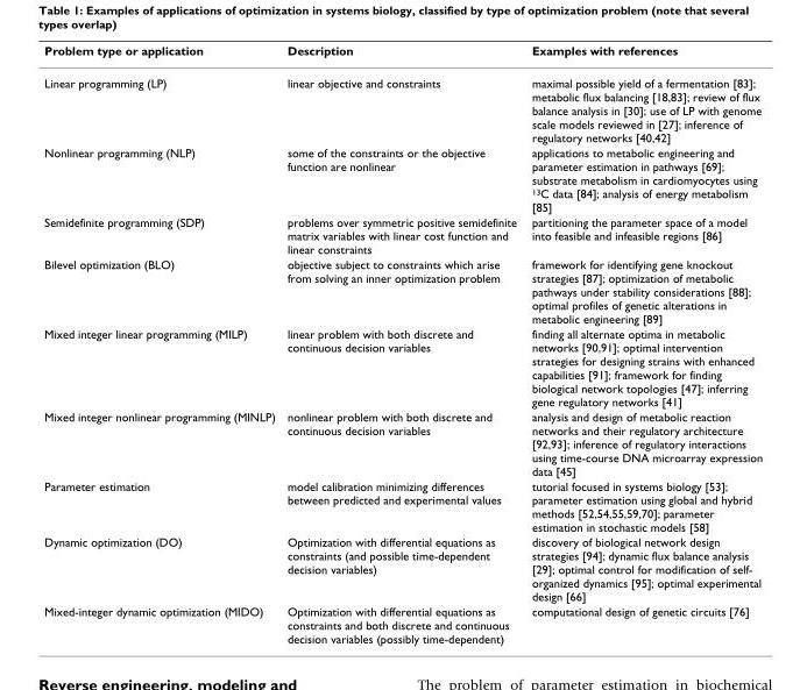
<table><thead><tr><td>Problem type or application</td><td>Description</td><td>Examples with references</td></tr></thead><tbody><tr><td>Linear programming (LP)</td><td>linear objective and constraints</td><td>maximal possible yield of a fermentation [83]; metabolic flux balancing [18,83]; review of flux balance analysis in [30]; use of LP with genome scale models reviewed in [27]; inference of regulatory networks [40,42]</td></tr><tr><td>Nonlinear programming (NLP)</td><td>some of the constraints or the objective function are nonlinear</td><td>applications to metabolic engineering and parameter estimation in pathways [69]; substrate metabolism in cardiomyocytes using <sup>13</sup>C data [84]; analysis of energy metabolism [85]</td></tr><tr><td>Semidefinite programming (SDP)</td><td>problems over symmetric positive semidefinite matrix variables with linear cost function and linear constraints</td><td>partitioning the parameter space of a model into feasible and infeasible regions [86]</td></tr><tr><td>Bilevel optimization (BLO)</td><td>objective subject to constraints which arise from solving an inner optimization problem</td><td>framework for identifying gene knockout strategies [87]; optimization of metabolic pathways under stability considerations [88]; optimal profiles of genetic alterations in metabolic engineering [89]</td></tr><tr><td>Mixed integer linear programming (MILP)</td><td>linear problem with both discrete and continuous decision variables</td><td>finding all alternate optima in metabolic networks [90,91]; optimal intervention strategies for designing strains with enhanced capabilities [91]; framework for finding biological network topologies [47]; inferring gene regulatory networks [41]</td></tr><tr><td>Mixed integer nonlinear programming (MINLP)</td><td>nonlinear problem with both discrete and continuous decision variables</td><td>analysis and design of metabolic reaction networks and their regulatory architecture [92,93]; inference of regulatory interactions using time-course DNA microarray expression data [45]</td></tr><tr><td>Parameter estimation</td><td>model calibration minimizing differences between predicted and experimental values</td><td>tutorial focused in systems biology [53]; parameter estimation using global and hybrid methods [52,54,55,59,70]; parameter estimation in stochastic models [58]</td></tr><tr><td>Dynamic optimization (DO)</td><td>Optimization with differential equations as constraints (and possible time-dependent decision variables)</td><td>discovery of biological network design strategies [94]; dynamic flux balance analysis [29]; optimal control for modification of self- organized dynamics [95]; optimal experimental design [66]</td></tr><tr><td>Mixed-integer dynamic optimization (MIDO)</td><td>Optimization with differential equations as constraints and both discrete and continuous decision variables (possibly time-dependent)</td><td>computational design of genetic circuits [76]</td></tr></tbody></table>